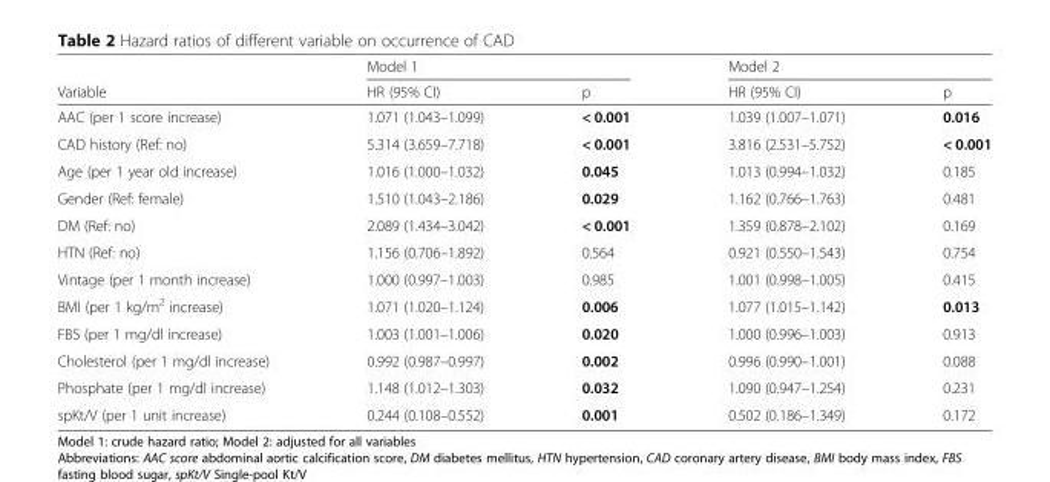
<table><thead><tr><td rowspan="2">Variable</td><td colspan="2">Model 1</td><td colspan="2">Model 2</td></tr><tr><td>HR (95% CI)</td><td>p</td><td>HR (95% CI)</td><td>p</td></tr></thead><tbody><tr><td>AAC (per 1 score increase)</td><td>1.071 (1.043–1.099)</td><td>&lt; 0.001</td><td>1.039 (1.007–1.071)</td><td>0.016</td></tr><tr><td>CAD history (Ref: no)</td><td>5.314 (3.659–7.718)</td><td>&lt; 0.001</td><td>3.816 (2.531–5.752)</td><td>&lt; 0.001</td></tr><tr><td>Age (per 1 year old increase)</td><td>1.016 (1.000–1.032)</td><td>0.045</td><td>1.013 (0.994–1.032)</td><td>0.185</td></tr><tr><td>Gender (Ref: female)</td><td>1.510 (1.043–2.186)</td><td>0.029</td><td>1.162 (0.766–1.763)</td><td>0.481</td></tr><tr><td>DM (Ref: no)</td><td>2.089 (1.434–3.042)</td><td>&lt; 0.001</td><td>1.359 (0.878–2.102)</td><td>0.169</td></tr><tr><td>HTN (Ref: no)</td><td>1.156 (0.706–1.892)</td><td>0.564</td><td>0.921 (0.550–1.543)</td><td>0.754</td></tr><tr><td>Vintage (per 1 month increase)</td><td>1.000 (0.997–1.003)</td><td>0.985</td><td>1.001 (0.998–1.005)</td><td>0.415</td></tr><tr><td>BMI (per 1 kg/m<sup>2</sup> increase)</td><td>1.071 (1.020–1.124)</td><td>0.006</td><td>1.077 (1.015–1.142)</td><td>0.013</td></tr><tr><td>FBS (per 1 mg/dl increase)</td><td>1.003 (1.001–1.006)</td><td>0.020</td><td>1.000 (0.996–1.003)</td><td>0.913</td></tr><tr><td>Cholesterol (per 1 mg/dl increase)</td><td>0.992 (0.987–0.997)</td><td>0.002</td><td>0.996 (0.990–1.001)</td><td>0.088</td></tr><tr><td>Phosphate (per 1 mg/dl increase)</td><td>1.148 (1.012–1.303)</td><td>0.032</td><td>1.090 (0.947–1.254)</td><td>0.231</td></tr><tr><td>spKt/V (per 1 unit increase)</td><td>0.244 (0.108–0.552)</td><td>0.001</td><td>0.502 (0.186–1.349)</td><td>0.172</td></tr></tbody></table>